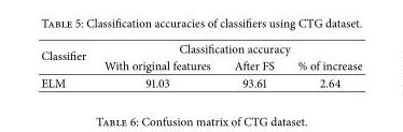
<table><thead><tr><td rowspan="2">Classifier</td><td colspan="3">Classification accuracy</td></tr><tr><td>With original features</td><td>After FS</td><td>% of increase</td></tr></thead><tbody><tr><td>ELM</td><td>91.03</td><td>93.61</td><td>2.64</td></tr></tbody></table>